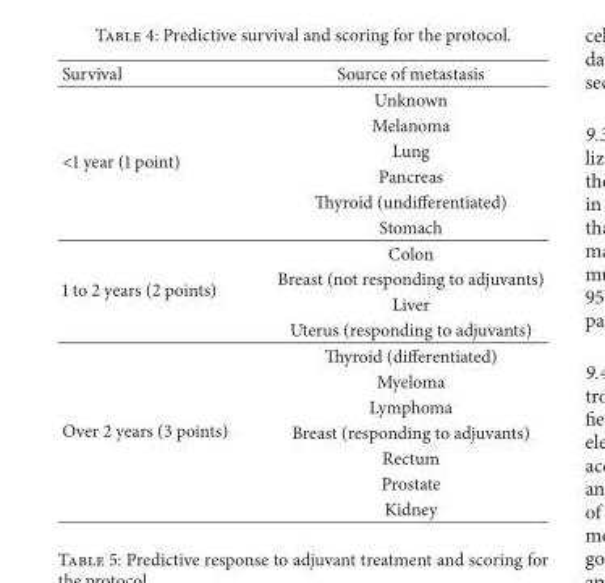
<table><thead><tr><td>Survival</td><td>Source of metastasis</td></tr></thead><tbody><tr><td rowspan="6">&lt;1 year (1 point)</td><td>Unknown</td></tr><tr><td>Melanoma</td></tr><tr><td>Lung</td></tr><tr><td>Pancreas</td></tr><tr><td>Thyroid (undifferentiated)</td></tr><tr><td>Stomach</td></tr><tr><td rowspan="4">1 to 2 years (2 points)</td><td>Colon</td></tr><tr><td>Breast (not responding to adjuvants)</td></tr><tr><td>Liver</td></tr><tr><td>Uterus (responding to adjuvants)</td></tr><tr><td rowspan="7">Over 2 years (3 points)</td><td>Thyroid (differentiated)</td></tr><tr><td>Myeloma</td></tr><tr><td>Lymphoma</td></tr><tr><td>Breast (responding to adjuvants)</td></tr><tr><td>Rectum</td></tr><tr><td>Prostate</td></tr><tr><td>Kidney</td></tr></tbody></table>